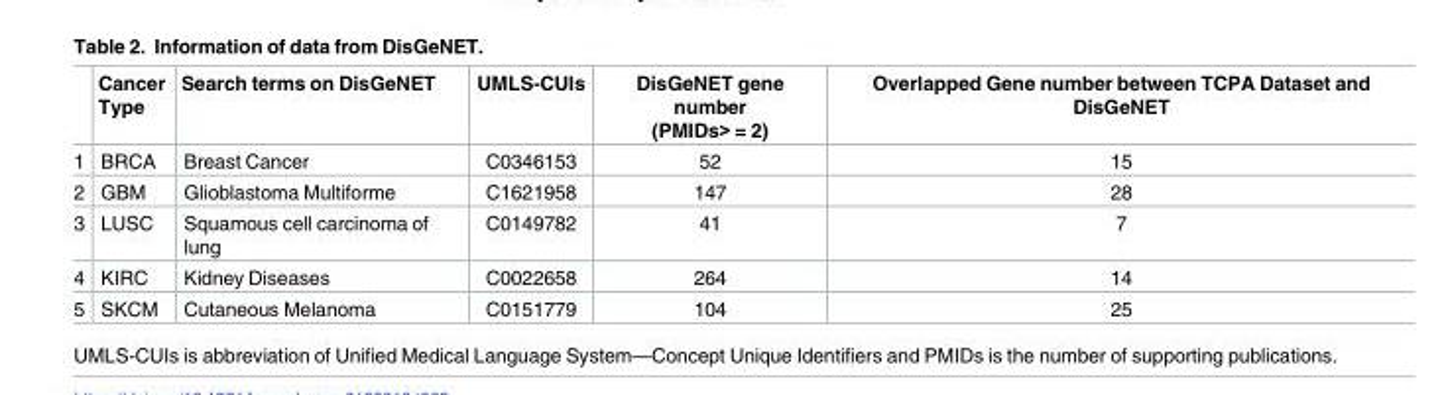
<table><thead><tr><td></td><td>Cancer Type</td><td>Search terms on DisGeNET</td><td>UMLS-CUIs</td><td>DisGeNET gene number (PMIDs&gt; = 2)</td><td>Overlapped Gene number between TCPA Dataset and DisGeNET</td></tr></thead><tbody><tr><td>1</td><td>BRCA</td><td>Breast Cancer</td><td>C0346153</td><td>52</td><td>15</td></tr><tr><td>2</td><td>GBM</td><td>Glioblastoma Multiforme</td><td>C1621958</td><td>147</td><td>28</td></tr><tr><td>3</td><td>LUSC</td><td>Squamous cell carcinoma of lung</td><td>C0149782</td><td>41</td><td>7</td></tr><tr><td>4</td><td>KIRC</td><td>Kidney Diseases</td><td>C0022658</td><td>264</td><td>14</td></tr><tr><td>5</td><td>SKCM</td><td>Cutaneous Melanoma</td><td>C0151779</td><td>104</td><td>25</td></tr></tbody></table>